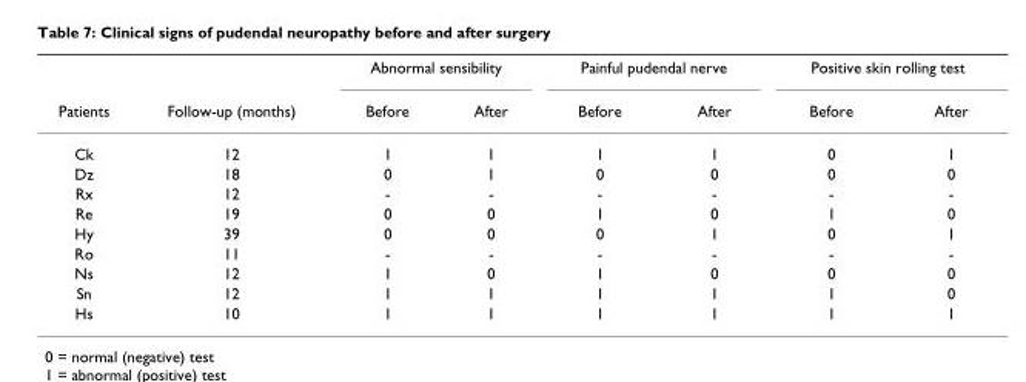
<table><thead><tr><td rowspan="2">Patients</td><td rowspan="2">Follow-up (months)</td><td colspan="2">Abnormal sensibility</td><td colspan="2">Painful pudendal nerve</td><td colspan="2">Positive skin rolling test</td></tr><tr><td>Before</td><td>After</td><td>Before</td><td>After</td><td>Before</td><td>After</td></tr></thead><tbody><tr><td>Ck</td><td>12</td><td>1</td><td>1</td><td>1</td><td>1</td><td>0</td><td>1</td></tr><tr><td>Dz</td><td>18</td><td>0</td><td>1</td><td>0</td><td>0</td><td>0</td><td>0</td></tr><tr><td>Rx</td><td>12</td><td>-</td><td>-</td><td>-</td><td>-</td><td>-</td><td>-</td></tr><tr><td>Re</td><td>19</td><td>0</td><td>0</td><td>1</td><td>0</td><td>1</td><td>0</td></tr><tr><td>Hy</td><td>39</td><td>0</td><td>0</td><td>0</td><td>1</td><td>0</td><td>1</td></tr><tr><td>Ro</td><td>11</td><td>-</td><td>-</td><td>-</td><td>-</td><td>-</td><td>-</td></tr><tr><td>Ns</td><td>12</td><td>1</td><td>0</td><td>1</td><td>0</td><td>0</td><td>0</td></tr><tr><td>Sn</td><td>12</td><td>1</td><td>1</td><td>1</td><td>1</td><td>1</td><td>0</td></tr><tr><td>Hs</td><td>10</td><td>1</td><td>1</td><td>1</td><td>1</td><td>1</td><td>1</td></tr></tbody></table>